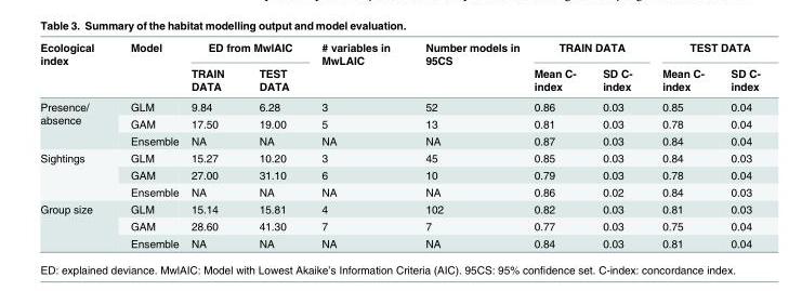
<table><thead><tr><td rowspan="2">Ecological index</td><td rowspan="2">Model</td><td colspan="2">ED from MwlAIC</td><td rowspan="2"># variables in MwLAIC</td><td rowspan="2">Number models in 95CS</td><td colspan="2">TRAIN DATA</td><td colspan="2">TEST DATA</td></tr><tr><td>TRAIN DATA</td><td>TEST DATA</td><td>Mean C- index</td><td>SD C- index</td><td>Mean C- index</td><td>SD C- index</td></tr></thead><tbody><tr><td rowspan="3">Presence/ absence</td><td>GLM</td><td>9.84</td><td>6.28</td><td>3</td><td>52</td><td>0.86</td><td>0.03</td><td>0.85</td><td>0.04</td></tr><tr><td>GAM</td><td>17.50</td><td>19.00</td><td>5</td><td>13</td><td>0.81</td><td>0.03</td><td>0.78</td><td>0.04</td></tr><tr><td>Ensemble</td><td>NA</td><td>NA</td><td>NA</td><td>NA</td><td>0.87</td><td>0.03</td><td>0.84</td><td>0.04</td></tr><tr><td rowspan="3">Sightings</td><td>GLM</td><td>15.27</td><td>10.20</td><td>3</td><td>45</td><td>0.85</td><td>0.03</td><td>0.84</td><td>0.03</td></tr><tr><td>GAM</td><td>27.00</td><td>31.10</td><td>6</td><td>10</td><td>0.79</td><td>0.03</td><td>0.78</td><td>0.04</td></tr><tr><td>Ensemble</td><td>NA</td><td>NA</td><td>NA</td><td>NA</td><td>0.86</td><td>0.02</td><td>0.84</td><td>0.03</td></tr><tr><td rowspan="3">Group size</td><td>GLM</td><td>15.14</td><td>15.81</td><td>4</td><td>102</td><td>0.82</td><td>0.03</td><td>0.81</td><td>0.03</td></tr><tr><td>GAM</td><td>28.60</td><td>41.30</td><td>7</td><td>7</td><td>0.77</td><td>0.03</td><td>0.75</td><td>0.04</td></tr><tr><td>Ensemble</td><td>NA</td><td>NA</td><td>NA</td><td>NA</td><td>0.84</td><td>0.03</td><td>0.81</td><td>0.04</td></tr></tbody></table>